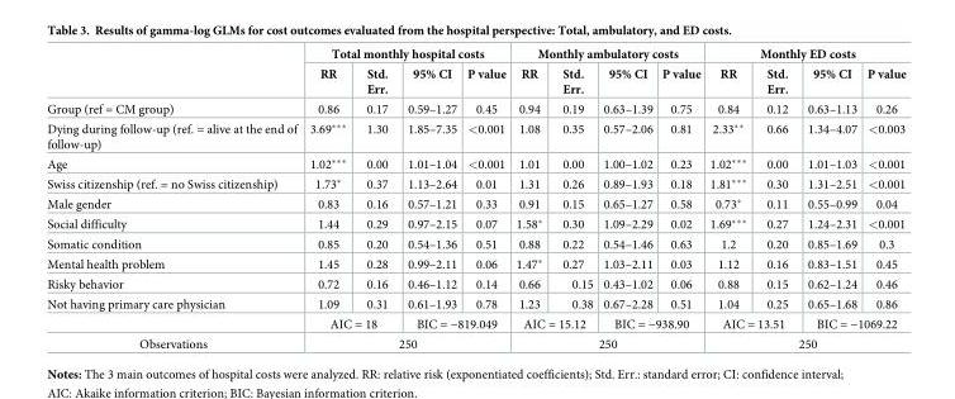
<table><thead><tr><td rowspan="2"></td><td colspan="4">Total monthly hospital costs</td><td colspan="4">Monthly ambulatory costs</td><td colspan="4">Monthly ED costs</td></tr><tr><td>RR</td><td>Std. Err.</td><td>95% CI</td><td>P value</td><td>RR</td><td>Std. Err.</td><td>95% CI</td><td>P value</td><td>RR</td><td>Std. Err.</td><td>95% CI</td><td>P value</td></tr></thead><tbody><tr><td>Group (ref = CM group)</td><td>0.86</td><td>0.17</td><td>0.59–1.27</td><td>0.45</td><td>0.94</td><td>0.19</td><td>0.63–1.39</td><td>0.75</td><td>0.84</td><td>0.12</td><td>0.63–1.13</td><td>0.26</td></tr><tr><td>Dying during follow-up (ref. = alive at the end of follow-up)</td><td>3.69***</td><td>1.30</td><td>1.85–7.35</td><td>&lt;0.001</td><td>1.08</td><td>0.35</td><td>0.57–2.06</td><td>0.81</td><td>2.33**</td><td>0.66</td><td>1.34–4.07</td><td>&lt;0.003</td></tr><tr><td>Age</td><td>1.02***</td><td>0.00</td><td>1.01–1.04</td><td>&lt;0.001</td><td>1.01</td><td>0.00</td><td>1.00–1.02</td><td>0.23</td><td>1.02***</td><td>0.00</td><td>1.01–1.03</td><td>&lt;0.001</td></tr><tr><td>Swiss citizenship (ref. = no Swiss citizenship)</td><td>1.73*</td><td>0.37</td><td>1.13–2.64</td><td>0.01</td><td>1.31</td><td>0.26</td><td>0.89–1.93</td><td>0.18</td><td>1.81***</td><td>0.30</td><td>1.31–2.51</td><td>&lt;0.001</td></tr><tr><td>Male gender</td><td>0.83</td><td>0.16</td><td>0.57–1.21</td><td>0.33</td><td>0.91</td><td>0.15</td><td>0.65–1.27</td><td>0.58</td><td>0.73*</td><td>0.11</td><td>0.55–0.99</td><td>0.04</td></tr><tr><td>Social difficulty</td><td>1.44</td><td>0.29</td><td>0.97–2.15</td><td>0.07</td><td>1.58*</td><td>0.30</td><td>1.09–2.29</td><td>0.02</td><td>1.69***</td><td>0.27</td><td>1.24–2.31</td><td>&lt;0.001</td></tr><tr><td>Somatic condition</td><td>0.85</td><td>0.20</td><td>0.54–1.36</td><td>0.51</td><td>0.88</td><td>0.22</td><td>0.54–1.46</td><td>0.63</td><td>1.2</td><td>0.20</td><td>0.85–1.69</td><td>0.3</td></tr><tr><td>Mental health problem</td><td>1.45</td><td>0.28</td><td>0.99–2.11</td><td>0.06</td><td>1.47*</td><td>0.27</td><td>1.03–2.11</td><td>0.03</td><td>1.12</td><td>0.16</td><td>0.83–1.51</td><td>0.45</td></tr><tr><td>Risky behavior</td><td>0.72</td><td>0.16</td><td>0.46–1.12</td><td>0.14</td><td>0.66</td><td>0.15</td><td>0.43–1.02</td><td>0.06</td><td>0.88</td><td>0.15</td><td>0.62–1.24</td><td>0.46</td></tr><tr><td rowspan="2">Not having primary care physician</td><td>1.09</td><td>0.31</td><td>0.61–1.93</td><td>0.78</td><td>1.23</td><td>0.38</td><td>0.67–2.28</td><td>0.51</td><td>1.04</td><td>0.25</td><td>0.65–1.68</td><td>0.86</td></tr><tr><td colspan="2">AIC = 18</td><td colspan="2">BIC = −819.049</td><td colspan="2">AIC = 15.12</td><td colspan="2">BIC = −938.90</td><td colspan="2">AIC = 13.51</td><td colspan="2">BIC = −1069.22</td></tr><tr><td>Observations</td><td colspan="4">250</td><td colspan="4">250</td><td colspan="4">250</td></tr></tbody></table>